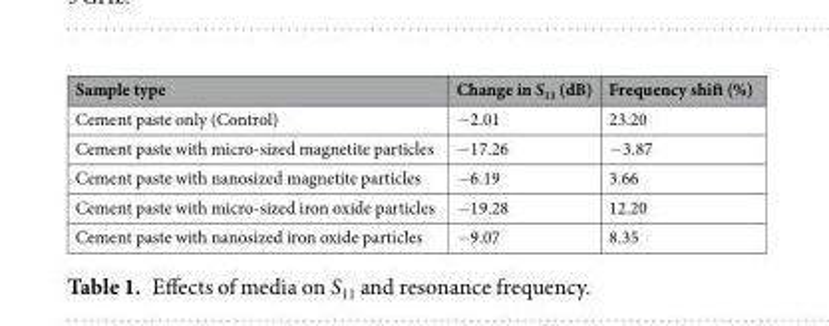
<table><thead><tr><td>Sample type</td><td>Change in S<sub>11</sub> (dB)</td><td>Frequency shift (%)</td></tr></thead><tbody><tr><td>Cement paste only (Control)</td><td>−2.01</td><td>23.20</td></tr><tr><td>Cement paste with micro-sized magnetite particles</td><td>−17.26</td><td>−3.87</td></tr><tr><td>Cement paste with nanosized magnetite particles</td><td>−6.19</td><td>3.66</td></tr><tr><td>Cement paste with micro-sized iron oxide particles</td><td>−19.28</td><td>12.20</td></tr><tr><td>Cement paste with nanosized iron oxide particles</td><td>−9.07</td><td>8.35</td></tr></tbody></table>